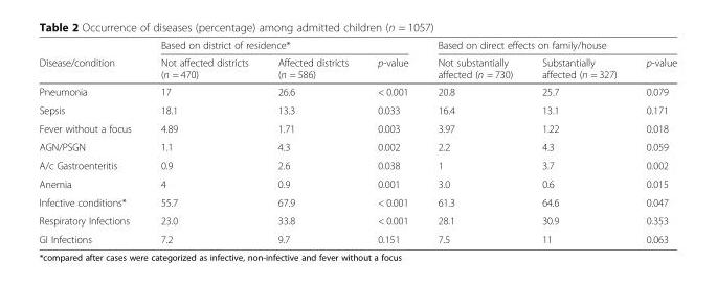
<table><thead><tr><td rowspan="2">Disease/condition</td><td colspan="3">Based on district of residence*</td><td colspan="3">Based on direct effects on family/house</td></tr><tr><td>Not affected districts (n = 470)</td><td>Affected districts (n = 586)</td><td>p-value</td><td>Not substantially affected (n = 730)</td><td>Substantially affected (n = 327)</td><td>p-value</td></tr></thead><tbody><tr><td>Pneumonia</td><td>17</td><td>26.6</td><td>&lt; 0.001</td><td>20.8</td><td>25.7</td><td>0.079</td></tr><tr><td>Sepsis</td><td>18.1</td><td>13.3</td><td>0.033</td><td>16.4</td><td>13.1</td><td>0.171</td></tr><tr><td>Fever without a focus</td><td>4.89</td><td>1.71</td><td>0.003</td><td>3.97</td><td>1.22</td><td>0.018</td></tr><tr><td>AGN/PSGN</td><td>1.1</td><td>4.3</td><td>0.002</td><td>2.2</td><td>4.3</td><td>0.059</td></tr><tr><td>A/c Gastroenteritis</td><td>0.9</td><td>2.6</td><td>0.038</td><td>1</td><td>3.7</td><td>0.002</td></tr><tr><td>Anemia</td><td>4</td><td>0.9</td><td>0.001</td><td>3.0</td><td>0.6</td><td>0.015</td></tr><tr><td>Infective conditions*</td><td>55.7</td><td>67.9</td><td>&lt; 0.001</td><td>61.3</td><td>64.6</td><td>0.047</td></tr><tr><td>Respiratory Infections</td><td>23.0</td><td>33.8</td><td>&lt; 0.001</td><td>28.1</td><td>30.9</td><td>0.353</td></tr><tr><td>GI Infections</td><td>7.2</td><td>9.7</td><td>0.151</td><td>7.5</td><td>11</td><td>0.063</td></tr></tbody></table>